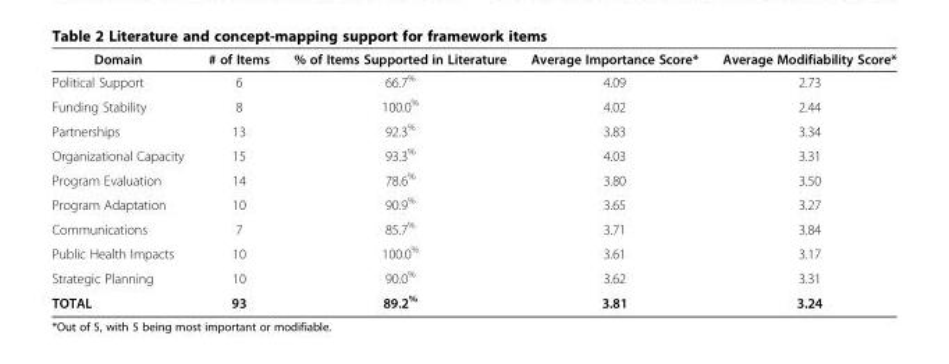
<table><thead><tr><td>Domain</td><td># of Items</td><td>% of Items Supported in Literature</td><td>Average Importance Score*</td><td>Average Modifiability Score*</td></tr></thead><tbody><tr><td>Political Support</td><td>6</td><td>66.7<sup>%</sup></td><td>4.09</td><td>2.73</td></tr><tr><td>Funding Stability</td><td>8</td><td>100.0<sup>%</sup></td><td>4.02</td><td>2.44</td></tr><tr><td>Partnerships</td><td>13</td><td>92.3<sup>%</sup></td><td>3.83</td><td>3.34</td></tr><tr><td>Organizational Capacity</td><td>15</td><td>93.3<sup>%</sup></td><td>4.03</td><td>3.31</td></tr><tr><td>Program Evaluation</td><td>14</td><td>78.6<sup>%</sup></td><td>3.80</td><td>3.50</td></tr><tr><td>Program Adaptation</td><td>10</td><td>90.9<sup>%</sup></td><td>3.65</td><td>3.27</td></tr><tr><td>Communications</td><td>7</td><td>85.7<sup>%</sup></td><td>3.71</td><td>3.84</td></tr><tr><td>Public Health Impacts</td><td>10</td><td>100.0<sup>%</sup></td><td>3.61</td><td>3.17</td></tr><tr><td>Strategic Planning</td><td>10</td><td>90.0<sup>%</sup></td><td>3.62</td><td>3.31</td></tr><tr><td>TOTAL</td><td>93</td><td>89.2<sup>%</sup></td><td>3.81</td><td>3.24</td></tr></tbody></table>